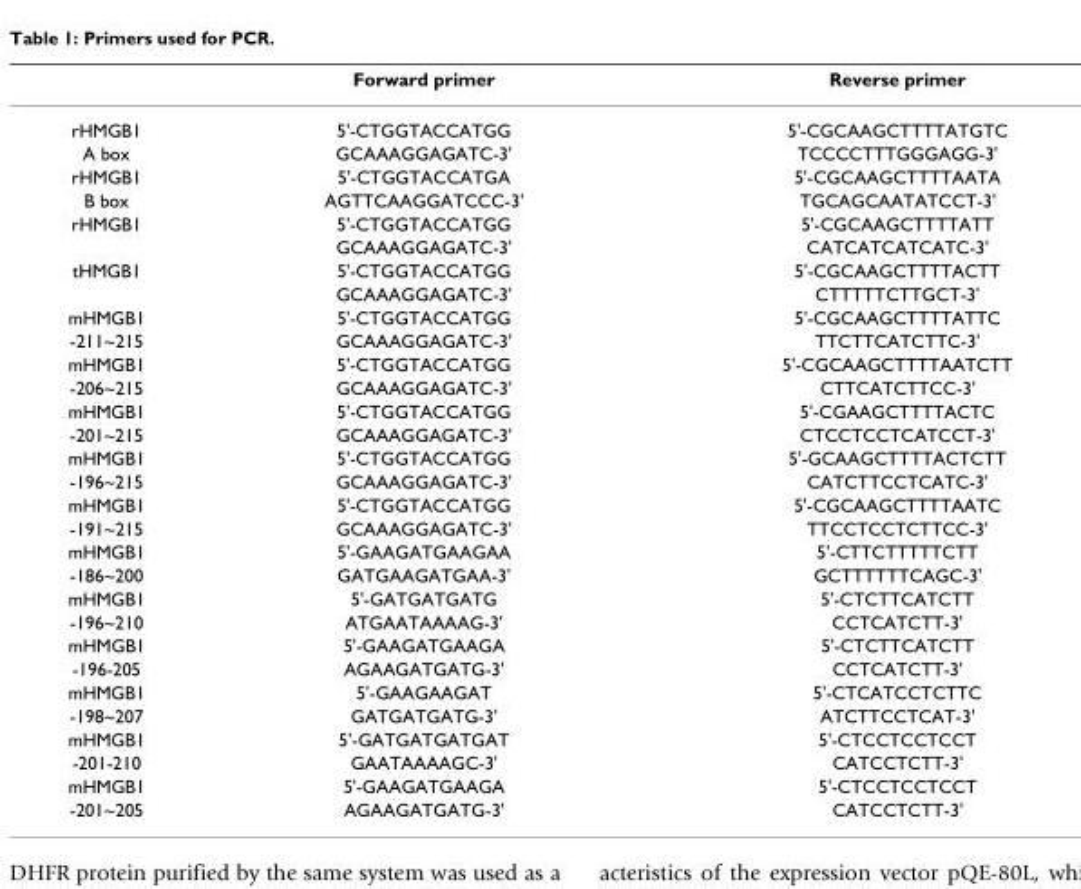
<table><thead><tr><td></td><td>Forward primer</td><td>Reverse primer</td></tr></thead><tbody><tr><td>rHMGB1</td><td>5&#x27;-CTGGTACCATGG</td><td>5&#x27;-CGCAAGCTTTTATGTC</td></tr><tr><td>A box</td><td>GCAAAGGAGATC-3&#x27;</td><td>TCCCCTTTGGGAGG-3&#x27;</td></tr><tr><td>rHMGB1</td><td>5&#x27;-CTGGTACCATGA</td><td>5&#x27;-CGCAAGCTTTTAATA</td></tr><tr><td>B box</td><td>AGTTCAAGGATCCC-3&#x27;</td><td>TGCAGCAATATCCT-3&#x27;</td></tr><tr><td rowspan="2">rHMGB1</td><td>5&#x27;-CTGGTACCATGG</td><td>5&#x27;-CGCAAGCTTTTATT</td></tr><tr><td>GCAAAGGAGATC-3&#x27;</td><td>CATCATCATCATC-3&#x27;</td></tr><tr><td rowspan="2">tHMGB1</td><td>5&#x27;-CTGGTACCATGG</td><td>5&#x27;-CGCAAGCTTTTACTT</td></tr><tr><td>GCAAAGGAGATC-3&#x27;</td><td>CTTTTTCTTGCT-3&#x27;</td></tr><tr><td>mHMGB1</td><td>5&#x27;-CTGGTACCATGG</td><td>5&#x27;-CGCAAGCTTTTATTC</td></tr><tr><td>-211~215</td><td>GCAAAGGAGATC-3&#x27;</td><td>TTCTTCATCTTC-3&#x27;</td></tr><tr><td>mHMGB1</td><td>5&#x27;-CTGGTACCATGG</td><td>5&#x27;-CGCAAGCTTTTAATCTT</td></tr><tr><td>-206~215</td><td>GCAAAGGAGATC-3&#x27;</td><td>CTTCATCTTCC-3&#x27;</td></tr><tr><td>mHMGB1</td><td>5&#x27;-CTGGTACCATGG</td><td>5&#x27;-CGAAGCTTTTACTC</td></tr><tr><td>-201~215</td><td>GCAAAGGAGATC-3&#x27;</td><td>CTCCTCCTCATCCT-3&#x27;</td></tr><tr><td>mHMGB1</td><td>5&#x27;-CTGGTACCATGG</td><td>5&#x27;-GCAAGCTTTTACTCTT</td></tr><tr><td>-196~215</td><td>GCAAAGGAGATC-3&#x27;</td><td>CATCTTCCTCATC-3&#x27;</td></tr><tr><td>mHMGB1</td><td>5&#x27;-CTGGTACCATGG</td><td>5&#x27;-CGCAAGCTTTTAATC</td></tr><tr><td>-191~215</td><td>GCAAAGGAGATC-3&#x27;</td><td>TTCCTCCTCTTCC-3&#x27;</td></tr><tr><td>mHMGB1</td><td>5&#x27;-GAAGATGAAGAA</td><td>5&#x27;-CTTCTTTTTCTT</td></tr><tr><td>-186~200</td><td>GATGAAGATGAA-3&#x27;</td><td>GCTTTTTTCAGC-3&#x27;</td></tr><tr><td>mHMGB1</td><td>5&#x27;-GATGATGATG</td><td>5&#x27;-CTCTTCATCTT</td></tr><tr><td>-196~210</td><td>ATGAATAAAAG-3&#x27;</td><td>CCTCATCTT-3&#x27;</td></tr><tr><td>mHMGB1</td><td>5&#x27;-GAAGATGAAGA</td><td>5&#x27;-CTCTTCATCTT</td></tr><tr><td>-196-205</td><td>AGAAGATGATG-3&#x27;</td><td>CCTCATCTT-3&#x27;</td></tr><tr><td>mHMGB1</td><td>5&#x27;-GAAGAAGAT</td><td>5&#x27;-CTCATCCTCTTC</td></tr><tr><td>-198~207</td><td>GATGATGATG-3&#x27;</td><td>ATCTTCCTCAT-3&#x27;</td></tr><tr><td>mHMGB1</td><td>5&#x27;-GATGATGATGAT</td><td>5&#x27;-CTCCTCCTCCT</td></tr><tr><td>-201-210</td><td>GAATAAAAGC-3&#x27;</td><td>CATCCTCTT-3&#x27;</td></tr><tr><td>mHMGB1</td><td>5&#x27;-GAAGATGAAGA</td><td>5&#x27;-CTCCTCCTCCT</td></tr><tr><td>-201~205</td><td>AGAAGATGATG-3&#x27;</td><td>CATCCTCTT-3&#x27;</td></tr></tbody></table>